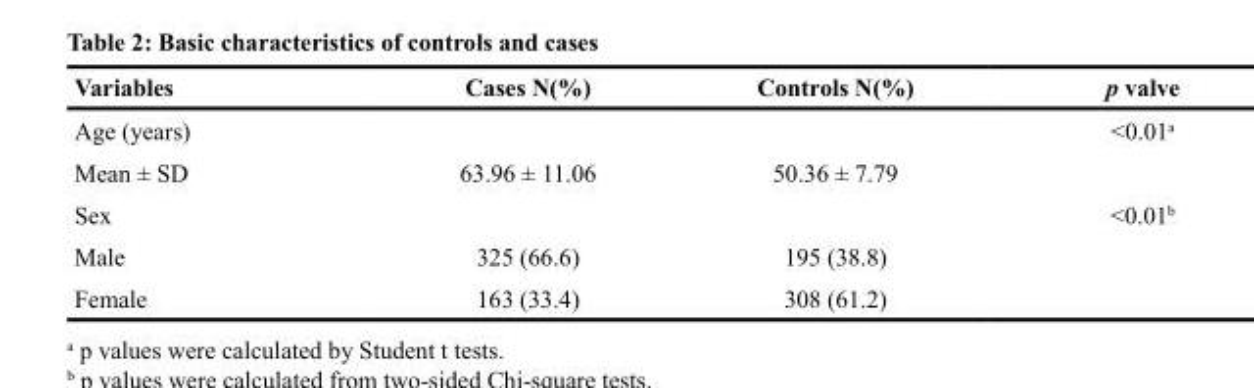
<table><thead><tr><td>Variables</td><td>Cases N(%)</td><td>Controls N(%)</td><td>p valve</td></tr></thead><tbody><tr><td>Age (years)</td><td></td><td></td><td>&lt;0.01<sup>a</sup></td></tr><tr><td>Mean ± SD</td><td>63.96 ± 11.06</td><td>50.36 ± 7.79</td><td></td></tr><tr><td>Sex</td><td></td><td></td><td>&lt;0.01<sup>b</sup></td></tr><tr><td>Male</td><td>325 (66.6)</td><td>195 (38.8)</td><td></td></tr><tr><td>Female</td><td>163 (33.4)</td><td>308 (61.2)</td><td></td></tr></tbody></table>